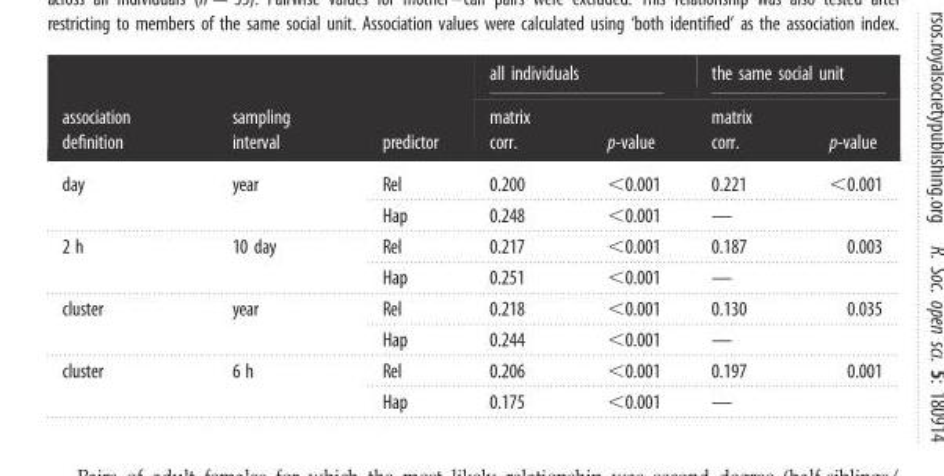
<table><thead><tr><td rowspan="2">association definition</td><td rowspan="2">sampling interval</td><td rowspan="2">predictor</td><td colspan="2">all individuals</td><td colspan="2">the same social unit</td></tr><tr><td>matrix corr.</td><td>p-value</td><td>matrix corr.</td><td>p-value</td></tr></thead><tbody><tr><td rowspan="2">day</td><td rowspan="2">year</td><td>Rel</td><td>0.200</td><td>&lt;0.001</td><td>0.221</td><td>&lt;0.001</td></tr><tr><td>Hap</td><td>0.248</td><td>&lt;0.001</td><td>—</td><td></td></tr><tr><td rowspan="2">2 h</td><td rowspan="2">10 day</td><td>Rel</td><td>0.217</td><td>&lt;0.001</td><td>0.187</td><td>0.003</td></tr><tr><td>Hap</td><td>0.251</td><td>&lt;0.001</td><td>—</td><td></td></tr><tr><td rowspan="2">cluster</td><td rowspan="2">year</td><td>Rel</td><td>0.218</td><td>&lt;0.001</td><td>0.130</td><td>0.035</td></tr><tr><td>Hap</td><td>0.244</td><td>&lt;0.001</td><td>—</td><td></td></tr><tr><td rowspan="2">cluster</td><td rowspan="2">6 h</td><td>Rel</td><td>0.206</td><td>&lt;0.001</td><td>0.197</td><td>0.001</td></tr><tr><td>Hap</td><td>0.175</td><td>&lt;0.001</td><td>—</td><td></td></tr></tbody></table>